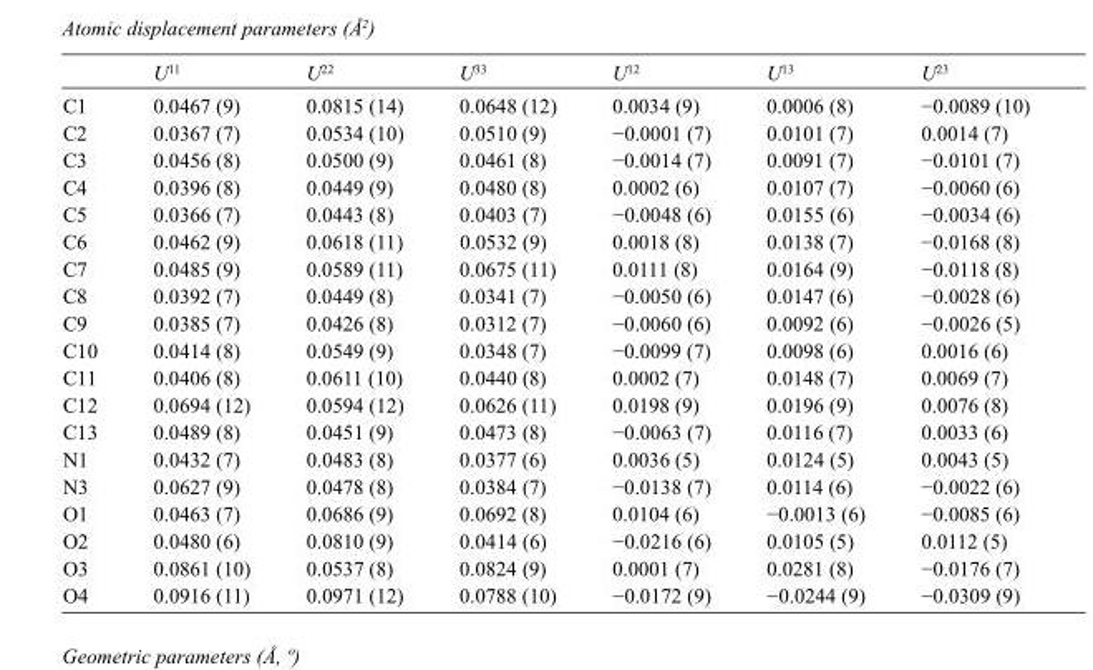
<table><thead><tr><td></td><td>U<sup>11</sup></td><td>U<sup>22</sup></td><td>U<sup>33</sup></td><td>U<sup>12</sup></td><td>U<sup>13</sup></td><td>U<sup>23</sup></td></tr></thead><tbody><tr><td>C1</td><td>0.0467 (9)</td><td>0.0815 (14)</td><td>0.0648 (12)</td><td>0.0034 (9)</td><td>0.0006 (8)</td><td>−0.0089 (10)</td></tr><tr><td>C2</td><td>0.0367 (7)</td><td>0.0534 (10)</td><td>0.0510 (9)</td><td>−0.0001 (7)</td><td>0.0101 (7)</td><td>0.0014 (7)</td></tr><tr><td>C3</td><td>0.0456 (8)</td><td>0.0500 (9)</td><td>0.0461 (8)</td><td>−0.0014 (7)</td><td>0.0091 (7)</td><td>−0.0101 (7)</td></tr><tr><td>C4</td><td>0.0396 (8)</td><td>0.0449 (9)</td><td>0.0480 (8)</td><td>0.0002 (6)</td><td>0.0107 (7)</td><td>−0.0060 (6)</td></tr><tr><td>C5</td><td>0.0366 (7)</td><td>0.0443 (8)</td><td>0.0403 (7)</td><td>−0.0048 (6)</td><td>0.0155 (6)</td><td>−0.0034 (6)</td></tr><tr><td>C6</td><td>0.0462 (9)</td><td>0.0618 (11)</td><td>0.0532 (9)</td><td>0.0018 (8)</td><td>0.0138 (7)</td><td>−0.0168 (8)</td></tr><tr><td>C7</td><td>0.0485 (9)</td><td>0.0589 (11)</td><td>0.0675 (11)</td><td>0.0111 (8)</td><td>0.0164 (9)</td><td>−0.0118 (8)</td></tr><tr><td>C8</td><td>0.0392 (7)</td><td>0.0449 (8)</td><td>0.0341 (7)</td><td>−0.0050 (6)</td><td>0.0147 (6)</td><td>−0.0028 (6)</td></tr><tr><td>C9</td><td>0.0385 (7)</td><td>0.0426 (8)</td><td>0.0312 (7)</td><td>−0.0060 (6)</td><td>0.0092 (6)</td><td>−0.0026 (5)</td></tr><tr><td>C10</td><td>0.0414 (8)</td><td>0.0549 (9)</td><td>0.0348 (7)</td><td>−0.0099 (7)</td><td>0.0098 (6)</td><td>0.0016 (6)</td></tr><tr><td>C11</td><td>0.0406 (8)</td><td>0.0611 (10)</td><td>0.0440 (8)</td><td>0.0002 (7)</td><td>0.0148 (7)</td><td>0.0069 (7)</td></tr><tr><td>C12</td><td>0.0694 (12)</td><td>0.0594 (12)</td><td>0.0626 (11)</td><td>0.0198 (9)</td><td>0.0196 (9)</td><td>0.0076 (8)</td></tr><tr><td>C13</td><td>0.0489 (8)</td><td>0.0451 (9)</td><td>0.0473 (8)</td><td>−0.0063 (7)</td><td>0.0116 (7)</td><td>0.0033 (6)</td></tr><tr><td>N1</td><td>0.0432 (7)</td><td>0.0483 (8)</td><td>0.0377 (6)</td><td>0.0036 (5)</td><td>0.0124 (5)</td><td>0.0043 (5)</td></tr><tr><td>N3</td><td>0.0627 (9)</td><td>0.0478 (8)</td><td>0.0384 (7)</td><td>−0.0138 (7)</td><td>0.0114 (6)</td><td>−0.0022 (6)</td></tr><tr><td>O1</td><td>0.0463 (7)</td><td>0.0686 (9)</td><td>0.0692 (8)</td><td>0.0104 (6)</td><td>−0.0013 (6)</td><td>−0.0085 (6)</td></tr><tr><td>O2</td><td>0.0480 (6)</td><td>0.0810 (9)</td><td>0.0414 (6)</td><td>−0.0216 (6)</td><td>0.0105 (5)</td><td>0.0112 (5)</td></tr><tr><td>O3</td><td>0.0861 (10)</td><td>0.0537 (8)</td><td>0.0824 (9)</td><td>0.0001 (7)</td><td>0.0281 (8)</td><td>−0.0176 (7)</td></tr><tr><td>O4</td><td>0.0916 (11)</td><td>0.0971 (12)</td><td>0.0788 (10)</td><td>−0.0172 (9)</td><td>−0.0244 (9)</td><td>−0.0309 (9)</td></tr></tbody></table>